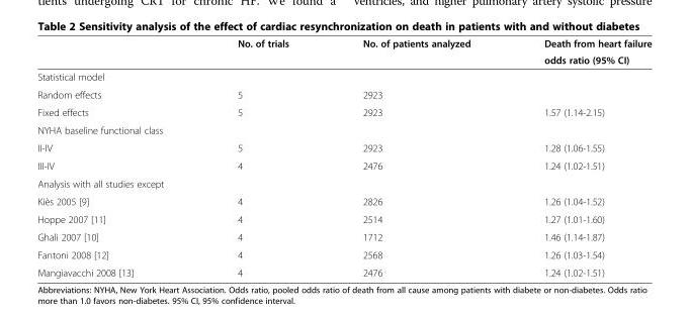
<table><thead><tr><td rowspan="2"></td><td rowspan="2">No. of trials</td><td rowspan="2">No. of patients analyzed</td><td rowspan="2">Death from heart failure odds ratio (95% CI)</td></tr><tr></tr></thead><tbody><tr><td colspan="4">Statistical model</td></tr><tr><td>Random effects</td><td>5</td><td>2923</td><td></td></tr><tr><td>Fixed effects</td><td>5</td><td>2923</td><td>1.57 (1.14-2.15)</td></tr><tr><td colspan="4">NYHA baseline functional class</td></tr><tr><td>II-IV</td><td>5</td><td>2923</td><td>1.28 (1.06-1.55)</td></tr><tr><td>III-IV</td><td>4</td><td>2476</td><td>1.24 (1.02-1.51)</td></tr><tr><td colspan="4">Analysis with all studies except</td></tr><tr><td>Kiès 2005 [9]</td><td>4</td><td>2826</td><td>1.26 (1.04-1.52)</td></tr><tr><td>Hoppe 2007 [11]</td><td>4</td><td>2514</td><td>1.27 (1.01-1.60)</td></tr><tr><td>Ghali 2007 [10]</td><td>4</td><td>1712</td><td>1.46 (1.14-1.87)</td></tr><tr><td>Fantoni 2008 [12]</td><td>4</td><td>2568</td><td>1.26 (1.03-1.54)</td></tr><tr><td>Mangiavacchi 2008 [13]</td><td>4</td><td>2476</td><td>1.24 (1.02-1.51)</td></tr></tbody></table>